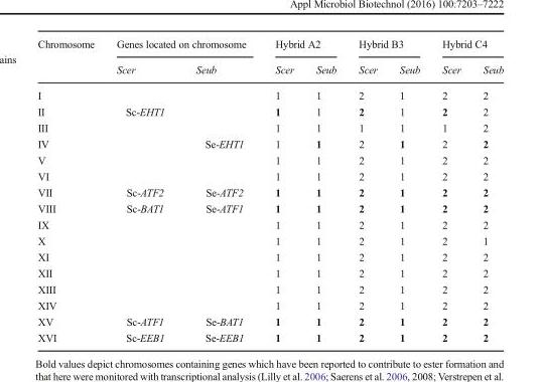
<table><thead><tr><td rowspan="2">Chromosome</td><td colspan="2">Genes located on chromosome</td><td colspan="2">Hybrid A2</td><td colspan="2">Hybrid B3</td><td colspan="2">Hybrid C4</td></tr><tr><td>Scer</td><td>Seub</td><td>Scer</td><td>Seub</td><td>Scer</td><td>Seub</td><td>Scer</td><td>Seub</td></tr></thead><tbody><tr><td>I</td><td></td><td></td><td>1</td><td>1</td><td>2</td><td>1</td><td>2</td><td>2</td></tr><tr><td>II</td><td>Sc-EHT1</td><td></td><td>1</td><td>1</td><td>2</td><td>1</td><td>2</td><td>2</td></tr><tr><td>III</td><td></td><td></td><td>1</td><td>1</td><td>1</td><td>1</td><td>1</td><td>2</td></tr><tr><td>IV</td><td></td><td>Se-EHT1</td><td>1</td><td>1</td><td>2</td><td>1</td><td>2</td><td>2</td></tr><tr><td>V</td><td></td><td></td><td>1</td><td>1</td><td>2</td><td>1</td><td>2</td><td>2</td></tr><tr><td>VI</td><td></td><td></td><td>1</td><td>1</td><td>2</td><td>1</td><td>2</td><td>2</td></tr><tr><td>VII</td><td>Sc-ATF2</td><td>Se-ATF2</td><td>1</td><td>1</td><td>2</td><td>1</td><td>2</td><td>2</td></tr><tr><td>VIII</td><td>Sc-BAT1</td><td>Se-ATF1</td><td>1</td><td>1</td><td>2</td><td>1</td><td>2</td><td>2</td></tr><tr><td>IX</td><td></td><td></td><td>1</td><td>1</td><td>2</td><td>1</td><td>2</td><td>2</td></tr><tr><td>X</td><td></td><td></td><td>1</td><td>1</td><td>2</td><td>1</td><td>2</td><td>1</td></tr><tr><td>XI</td><td></td><td></td><td>1</td><td>1</td><td>2</td><td>1</td><td>2</td><td>2</td></tr><tr><td>XII</td><td></td><td></td><td>1</td><td>1</td><td>2</td><td>1</td><td>2</td><td>2</td></tr><tr><td>XIII</td><td></td><td></td><td>1</td><td>1</td><td>2</td><td>1</td><td>2</td><td>2</td></tr><tr><td>XIV</td><td></td><td></td><td>1</td><td>1</td><td>2</td><td>1</td><td>2</td><td>2</td></tr><tr><td>XV</td><td>Sc-ATF1</td><td>Se-BAT1</td><td>1</td><td>1</td><td>2</td><td>1</td><td>2</td><td>2</td></tr><tr><td>XVI</td><td>Sc-EEB1</td><td>Se-EEB1</td><td>1</td><td>1</td><td>2</td><td>1</td><td>2</td><td>2</td></tr></tbody></table>